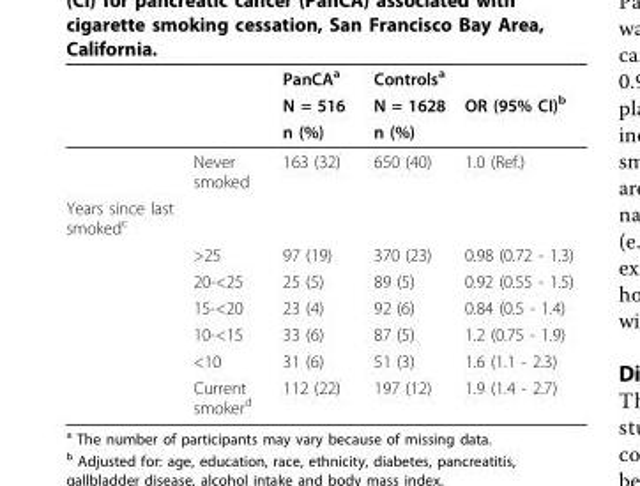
<table><thead><tr><td rowspan="3"></td><td rowspan="3"></td><td rowspan="3">PanCA<sup>a</sup> N = 516 n (%)</td><td rowspan="3">Controls<sup>a</sup> N = 1628 n (%)</td><td rowspan="3">OR (95% CI)<sup>b</sup></td></tr><tr></tr><tr></tr></thead><tbody><tr><td></td><td>Never smoked</td><td>163 (32)</td><td>650 (40)</td><td>1.0 (Ref.)</td></tr><tr><td colspan="5">Years since last smoked<sup>c</sup></td></tr><tr><td></td><td>&gt;25</td><td>97 (19)</td><td>370 (23)</td><td>0.98 (0.72 - 1.3)</td></tr><tr><td></td><td>20-&lt;25</td><td>25 (5)</td><td>89 (5)</td><td>0.92 (0.55 - 1.5)</td></tr><tr><td></td><td>15-&lt;20</td><td>23 (4)</td><td>92 (6)</td><td>0.84 (0.5 - 1.4)</td></tr><tr><td></td><td>10-&lt;15</td><td>33 (6)</td><td>87 (5)</td><td>1.2 (0.75 - 1.9)</td></tr><tr><td></td><td>&lt;10</td><td>31 (6)</td><td>51 (3)</td><td>1.6 (1.1 - 2.3)</td></tr><tr><td></td><td>Current smoker<sup>d</sup></td><td>112 (22)</td><td>197 (12)</td><td>1.9 (1.4 - 2.7)</td></tr></tbody></table>